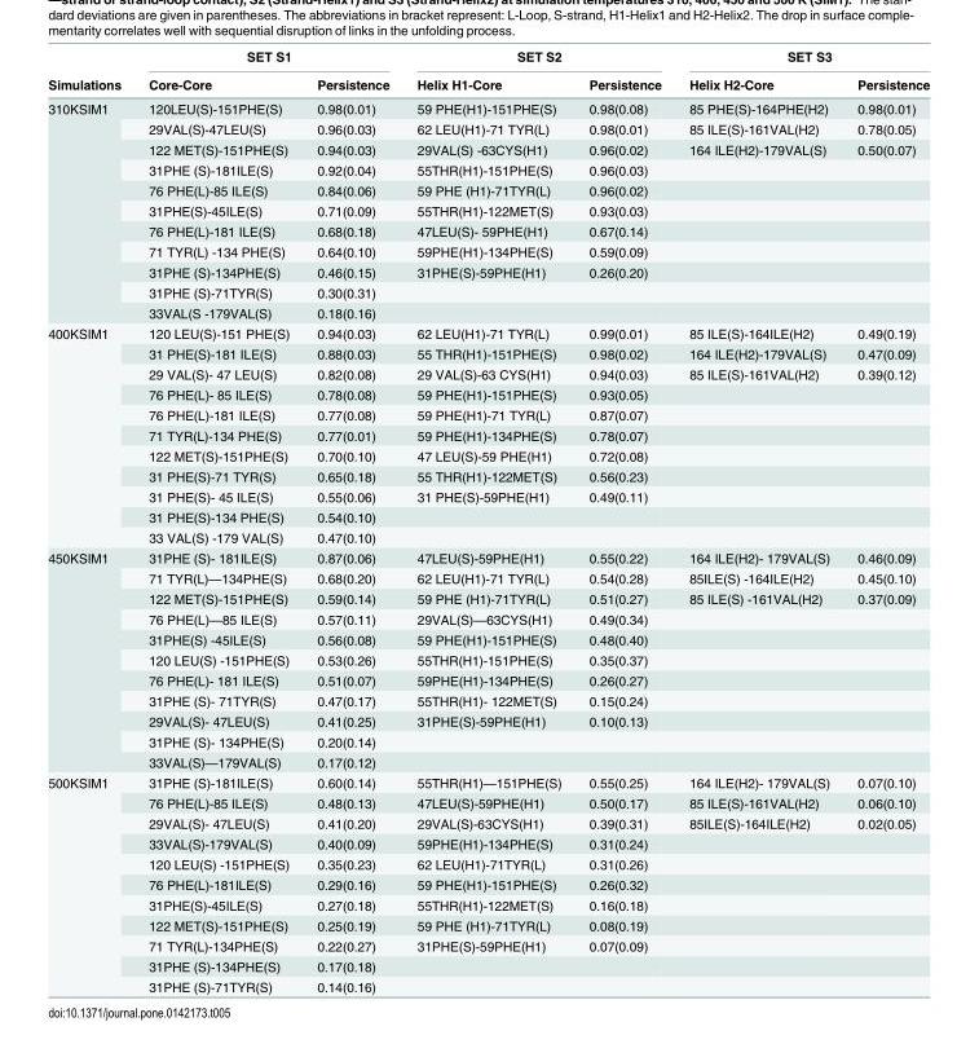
<table><thead><tr><td rowspan="2">Simulations</td><td colspan="2">SET S1</td><td colspan="2">SET S2</td><td colspan="2">SET S3</td></tr><tr><td>Core-Core</td><td>Persistence</td><td>Helix H1-Core</td><td>Persistence</td><td>Helix H2-Core</td><td>Persistence</td></tr></thead><tbody><tr><td rowspan="11">310KSIM1</td><td>120LEU(S)-151PHE(S)</td><td>0.98(0.01)</td><td>59 PHE(H1)-151PHE(S)</td><td>0.98(0.08)</td><td>85 PHE(S)-164PHE(H2)</td><td>0.98(0.01)</td></tr><tr><td>29VAL(S)-47LEU(S)</td><td>0.96(0.03)</td><td>62 LEU(H1)-71 TYR(L)</td><td>0.98(0.01)</td><td>85 ILE(S)-161VAL(H2)</td><td>0.78(0.05)</td></tr><tr><td>122 MET(S)-151PHE(S)</td><td>0.94(0.03)</td><td>29VAL(S) -63CYS(H1)</td><td>0.96(0.02)</td><td>164 ILE(H2)-179VAL(S)</td><td>0.50(0.07)</td></tr><tr><td>31PHE (S)-181ILE(S)</td><td>0.92(0.04)</td><td>55THR(H1)-151PHE(S)</td><td>0.96(0.03)</td><td></td><td></td></tr><tr><td>76 PHE(L)-85 ILE(S)</td><td>0.84(0.06)</td><td>59 PHE (H1)-71TYR(L)</td><td>0.96(0.02)</td><td></td><td></td></tr><tr><td>31PHE(S)-45ILE(S)</td><td>0.71(0.09)</td><td>55THR(H1)-122MET(S)</td><td>0.93(0.03)</td><td></td><td></td></tr><tr><td>76 PHE(L)-181 ILE(S)</td><td>0.68(0.18)</td><td>47LEU(S)- 59PHE(H1)</td><td>0.67(0.14)</td><td></td><td></td></tr><tr><td>71 TYR(L) -134 PHE(S)</td><td>0.64(0.10)</td><td>59PHE(H1)-134PHE(S)</td><td>0.59(0.09)</td><td></td><td></td></tr><tr><td>31PHE (S)-134PHE(S)</td><td>0.46(0.15)</td><td>31PHE(S)-59PHE(H1)</td><td>0.26(0.20)</td><td></td><td></td></tr><tr><td>31PHE (S)-71TYR(S)</td><td>0.30(0.31)</td><td></td><td></td><td></td><td></td></tr><tr><td>33VAL(S -179VAL(S)</td><td>0.18(0.16)</td><td></td><td></td><td></td><td></td></tr><tr><td rowspan="11">400KSIM1</td><td>120 LEU(S)-151 PHE(S)</td><td>0.94(0.03)</td><td>62 LEU(H1)-71 TYR(L)</td><td>0.99(0.01)</td><td>85 ILE(S)-164ILE(H2)</td><td>0.49(0.19)</td></tr><tr><td>31 PHE(S)-181 ILE(S)</td><td>0.88(0.03)</td><td>55 THR(H1)-151PHE(S)</td><td>0.98(0.02)</td><td>164 ILE(H2)-179VAL(S)</td><td>0.47(0.09)</td></tr><tr><td>29 VAL(S)- 47 LEU(S)</td><td>0.82(0.08)</td><td>29 VAL(S)-63 CYS(H1)</td><td>0.94(0.03)</td><td>85 ILE(S)-161VAL(H2)</td><td>0.39(0.12)</td></tr><tr><td>76 PHE(L)- 85 ILE(S)</td><td>0.78(0.08)</td><td>59 PHE(H1)-151PHE(S)</td><td>0.93(0.05)</td><td></td><td></td></tr><tr><td>76 PHE(L)-181 ILE(S)</td><td>0.77(0.08)</td><td>59 PHE(H1)-71 TYR(L)</td><td>0.87(0.07)</td><td></td><td></td></tr><tr><td>71 TYR(L)-134 PHE(S)</td><td>0.77(0.01)</td><td>59 PHE(H1)-134PHE(S)</td><td>0.78(0.07)</td><td></td><td></td></tr><tr><td>122 MET(S)-151PHE(S)</td><td>0.70(0.10)</td><td>47 LEU(S)-59 PHE(H1)</td><td>0.72(0.08)</td><td></td><td></td></tr><tr><td>31 PHE(S)-71 TYR(S)</td><td>0.65(0.18)</td><td>55 THR(H1)-122MET(S)</td><td>0.56(0.23)</td><td></td><td></td></tr><tr><td>31 PHE(S)- 45 ILE(S)</td><td>0.55(0.06)</td><td>31 PHE(S)-59PHE(H1)</td><td>0.49(0.11)</td><td></td><td></td></tr><tr><td>31 PHE(S)-134 PHE(S)</td><td>0.54(0.10)</td><td></td><td></td><td></td><td></td></tr><tr><td>33 VAL(S) -179 VAL(S)</td><td>0.47(0.10)</td><td></td><td></td><td></td><td></td></tr><tr><td rowspan="11">450KSIM1</td><td>31PHE (S)- 181ILE(S)</td><td>0.87(0.06)</td><td>47LEU(S)-59PHE(H1)</td><td>0.55(0.22)</td><td>164 ILE(H2)- 179VAL(S)</td><td>0.46(0.09)</td></tr><tr><td>71 TYR(L)—134PHE(S)</td><td>0.68(0.20)</td><td>62 LEU(H1)-71 TYR(L)</td><td>0.54(0.28)</td><td>85ILE(S) -164ILE(H2)</td><td>0.45(0.10)</td></tr><tr><td>122 MET(S)-151PHE(S)</td><td>0.59(0.14)</td><td>59 PHE (H1)-71TYR(L)</td><td>0.51(0.27)</td><td>85 ILE(S) -161VAL(H2)</td><td>0.37(0.09)</td></tr><tr><td>76 PHE(L)—85 ILE(S)</td><td>0.57(0.11)</td><td>29VAL(S)—63CYS(H1)</td><td>0.49(0.34)</td><td></td><td></td></tr><tr><td>31PHE(S) -45ILE(S)</td><td>0.56(0.08)</td><td>59 PHE(H1)-151PHE(S)</td><td>0.48(0.40)</td><td></td><td></td></tr><tr><td>120 LEU(S) -151PHE(S)</td><td>0.53(0.26)</td><td>55THR(H1)-151PHE(S)</td><td>0.35(0.37)</td><td></td><td></td></tr><tr><td>76 PHE(L)- 181 ILE(S)</td><td>0.51(0.07)</td><td>59PHE(H1)-134PHE(S)</td><td>0.26(0.27)</td><td></td><td></td></tr><tr><td>31PHE (S)- 71TYR(S)</td><td>0.47(0.17)</td><td>55THR(H1)- 122MET(S)</td><td>0.15(0.24)</td><td></td><td></td></tr><tr><td>29VAL(S)- 47LEU(S)</td><td>0.41(0.25)</td><td>31PHE(S)-59PHE(H1)</td><td>0.10(0.13)</td><td></td><td></td></tr><tr><td>31PHE (S)- 134PHE(S)</td><td>0.20(0.14)</td><td></td><td></td><td></td><td></td></tr><tr><td>33VAL(S)—179VAL(S)</td><td>0.17(0.12)</td><td></td><td></td><td></td><td></td></tr><tr><td rowspan="11">500KSIM1</td><td>31PHE (S)-181ILE(S)</td><td>0.60(0.14)</td><td>55THR(H1)—151PHE(S)</td><td>0.55(0.25)</td><td>164 ILE(H2)- 179VAL(S)</td><td>0.07(0.10)</td></tr><tr><td>76 PHE(L)-85 ILE(S)</td><td>0.48(0.13)</td><td>47LEU(S)-59PHE(H1)</td><td>0.50(0.17)</td><td>85 ILE(S)-161VAL(H2)</td><td>0.06(0.10)</td></tr><tr><td>29VAL(S)- 47LEU(S)</td><td>0.41(0.20)</td><td>29VAL(S)-63CYS(H1)</td><td>0.39(0.31)</td><td>85ILE(S)-164ILE(H2)</td><td>0.02(0.05)</td></tr><tr><td>33VAL(S)-179VAL(S)</td><td>0.40(0.09)</td><td>59PHE(H1)-134PHE(S)</td><td>0.31(0.24)</td><td></td><td></td></tr><tr><td>120 LEU(S) -151PHE(S)</td><td>0.35(0.23)</td><td>62 LEU(H1)-71TYR(L)</td><td>0.31(0.26)</td><td></td><td></td></tr><tr><td>76 PHE(L)-181ILE(S)</td><td>0.29(0.16)</td><td>59 PHE(H1)-151PHE(S)</td><td>0.26(0.32)</td><td></td><td></td></tr><tr><td>31PHE(S)-45ILE(S)</td><td>0.27(0.18)</td><td>55THR(H1)-122MET(S)</td><td>0.16(0.18)</td><td></td><td></td></tr><tr><td>122 MET(S)-151PHE(S)</td><td>0.25(0.19)</td><td>59 PHE (H1)-71TYR(L)</td><td>0.08(0.19)</td><td></td><td></td></tr><tr><td>71 TYR(L)-134PHE(S)</td><td>0.22(0.27)</td><td>31PHE(S)-59PHE(H1)</td><td>0.07(0.09)</td><td></td><td></td></tr><tr><td>31PHE (S)-134PHE(S)</td><td>0.17(0.18)</td><td></td><td></td><td></td><td></td></tr><tr><td>31PHE (S)-71TYR(S)</td><td>0.14(0.16)</td><td></td><td></td><td></td><td></td></tr></tbody></table>